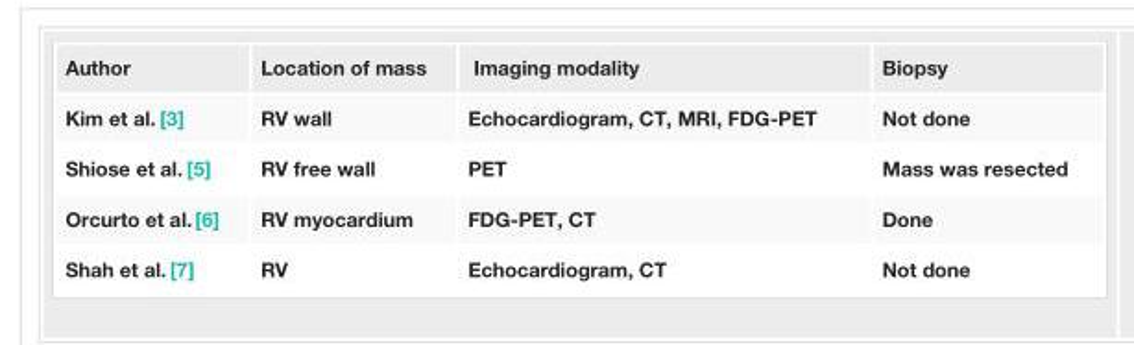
<table><tbody><tr><td>Author</td><td>Location of mass</td><td>Imaging modality</td><td>Biopsy</td></tr><tr><td>Kim et al. [3]</td><td>RV wall</td><td>Echocardiogram, CT, MRI, FDG-PET</td><td>Not done</td></tr><tr><td>Shiose et al. [5]</td><td>RV free wall</td><td>PET</td><td>Mass was resected</td></tr><tr><td>Orcurto et al. [6]</td><td>RV myocardium</td><td>FDG-PET, CT</td><td>Done</td></tr><tr><td>Shah et al. [7]</td><td>RV</td><td>Echocardiogram, CT</td><td>Not done</td></tr></tbody></table>